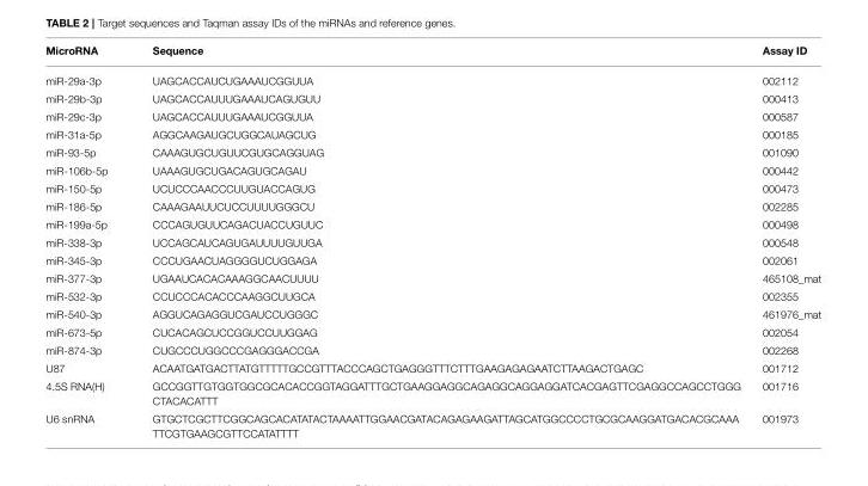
<table><thead><tr><td>MicroRNA</td><td>Sequence</td><td>Assay ID</td></tr></thead><tbody><tr><td>miR-29a-3p</td><td>UAGCACCAUCUGAAAUCGGUUA</td><td>002112</td></tr><tr><td>miR-29b-3p</td><td>UAGCACCAUUUGAAAUCAGUGUU</td><td>000413</td></tr><tr><td>miR-29c-3p</td><td>UAGCACCAUUUGAAAUCGGUUA</td><td>000587</td></tr><tr><td>miR-31a-5p</td><td>AGGCAAGAUGCUGGCAUAGCUG</td><td>000185</td></tr><tr><td>miR-93-5p</td><td>CAAAGUGCUGUUCGUGCAGGUAG</td><td>001090</td></tr><tr><td>miR-106b-5p</td><td>UAAAGUGCUGACAGUGCAGAU</td><td>000442</td></tr><tr><td>miR-150-5p</td><td>UCUCCCAACCCUUGUACCAGUG</td><td>000473</td></tr><tr><td>miR-186-5p</td><td>CAAAGAAUUCUCCUUUUGGGCU</td><td>002285</td></tr><tr><td>miR-199a-5p</td><td>CCCAGUGUUCAGACUACCUGUUC</td><td>000498</td></tr><tr><td>miR-338-3p</td><td>UCCAGCAUCAGUGAUUUUGUUGA</td><td>000548</td></tr><tr><td>miR-345-3p</td><td>CCCUGAACUAGGGGUCUGGAGA</td><td>002061</td></tr><tr><td>miR-377-3p</td><td>UGAAUCACACAAAGGCAACUUUU</td><td>465108_mat</td></tr><tr><td>miR-532-3p</td><td>CCUCCCACACCCAAGGCUUGCA</td><td>002355</td></tr><tr><td>miR-540-3p</td><td>AGGUCAGAGGUCGAUCCUGGGC</td><td>461976_mat</td></tr><tr><td>miR-673-5p</td><td>CUCACAGCUCCGGUCCUUGGAG</td><td>002054</td></tr><tr><td>miR-874-3p</td><td>CUGCCCUGGCCCGAGGGACCGA</td><td>002268</td></tr><tr><td>U87</td><td>ACAATGATGACTTATGTTTTTGCCGTTTACCCAGCTGAGGGTTTCTTTGAAGAGAGAATCTTAAGACTGAGC</td><td>001712</td></tr><tr><td>4.5S RNA(H)</td><td>GCCGGTTGTGGTGGCGCACACCGGTAGGATTTGCTGAAGGAGGCAGAGGCAGGAGGATCACGAGTTCGAGGCCAGCCTGGG CTACACATTT</td><td>001716</td></tr><tr><td>U6 snRNA</td><td>GTGCTCGCTTCGGCAGCACATATACTAAAATTGGAACGATACAGAGAAGATTAGCATGGCCCCTGCGCAAGGATGACACGCAAA TTCGTGAAGCGTTCCATATTTT</td><td>001973</td></tr></tbody></table>